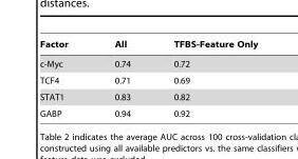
<table><thead><tr><td>Factor</td><td>All</td><td>TFBS-Feature Only</td></tr></thead><tbody><tr><td>c-Myc</td><td>0.74</td><td>0.72</td></tr><tr><td>TCF4</td><td>0.71</td><td>0.69</td></tr><tr><td>STAT1</td><td>0.83</td><td>0.82</td></tr><tr><td>GABP</td><td>0.94</td><td>0.92</td></tr></tbody></table>